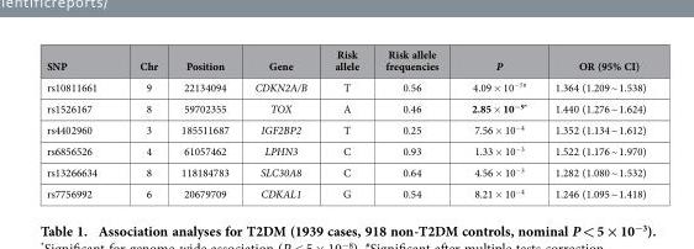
<table><thead><tr><td>SNP</td><td>Chr</td><td>Position</td><td>Gene</td><td>Risk allele</td><td>Risk allele frequencies</td><td>P</td><td>OR (95% CI)</td></tr></thead><tbody><tr><td>rs10811661</td><td>9</td><td>22134094</td><td>CDKN2A/B</td><td>T</td><td>0.56</td><td>4.09 × 10<sup>−7</sup>#</td><td>1.364 (1.209 ~ 1.538)</td></tr><tr><td>rs1526167</td><td>8</td><td>59702355</td><td>TOX</td><td>A</td><td>0.46</td><td>2.85 × 10<sup>−9</sup>*</td><td>1.440 (1.276 ~ 1.624)</td></tr><tr><td>rs4402960</td><td>3</td><td>185511687</td><td>IGF2BP2</td><td>T</td><td>0.25</td><td>7.56 × 10<sup>−4</sup></td><td>1.352 (1.134 ~ 1.612)</td></tr><tr><td>rs6856526</td><td>4</td><td>61057462</td><td>LPHN3</td><td>C</td><td>0.93</td><td>1.33 × 10<sup>−3</sup></td><td>1.522 (1.176 ~ 1.970)</td></tr><tr><td>rs13266634</td><td>8</td><td>118184783</td><td>SLC30A8</td><td>C</td><td>0.64</td><td>4.56 × 10<sup>−3</sup></td><td>1.282 (1.080 ~ 1.532)</td></tr><tr><td>rs7756992</td><td>6</td><td>20679709</td><td>CDKAL1</td><td>G</td><td>0.54</td><td>8.21 × 10<sup>−4</sup></td><td>1.246 (1.095 ~ 1.418)</td></tr></tbody></table>